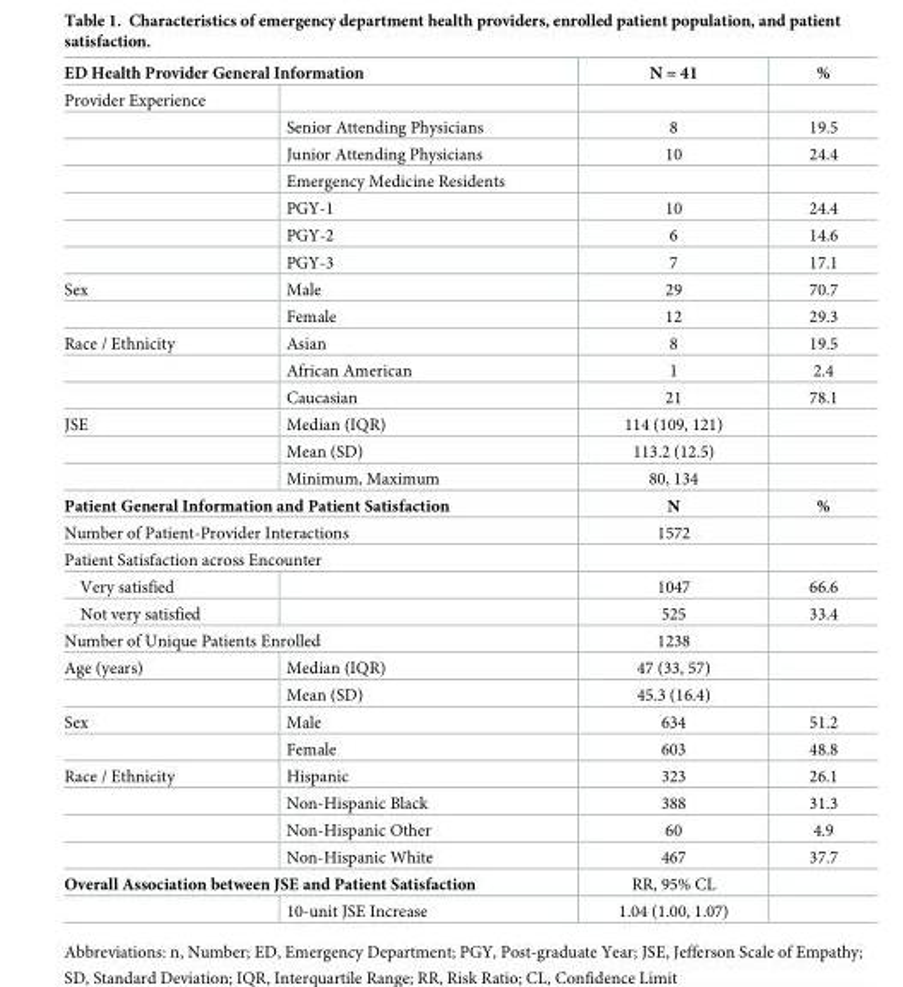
<table><tbody><tr><td colspan="2">ED Health Provider General Information</td><td>N = 41</td><td>%</td></tr><tr><td colspan="4">Provider Experience</td></tr><tr><td></td><td>Senior Attending Physicians</td><td>8</td><td>19.5</td></tr><tr><td></td><td>Junior Attending Physicians</td><td>10</td><td>24.4</td></tr><tr><td></td><td>Emergency Medicine Residents</td><td></td><td></td></tr><tr><td></td><td>PGY-1</td><td>10</td><td>24.4</td></tr><tr><td></td><td>PGY-2</td><td>6</td><td>14.6</td></tr><tr><td></td><td>PGY-3</td><td>7</td><td>17.1</td></tr><tr><td rowspan="2">Sex</td><td>Male</td><td>29</td><td>70.7</td></tr><tr><td>Female</td><td>12</td><td>29.3</td></tr><tr><td rowspan="3">Race / Ethnicity</td><td>Asian</td><td>8</td><td>19.5</td></tr><tr><td>African American</td><td>1</td><td>2.4</td></tr><tr><td>Caucasian</td><td>21</td><td>78.1</td></tr><tr><td rowspan="3">JSE</td><td>Median (IQR)</td><td>114 (109, 121)</td><td></td></tr><tr><td>Mean (SD)</td><td>113.2 (12.5)</td><td></td></tr><tr><td>Minimum, Maximum</td><td>80, 134</td><td></td></tr><tr><td colspan="2">Patient General Information and Patient Satisfaction</td><td>N</td><td>%</td></tr><tr><td colspan="2">Number of Patient-Provider Interactions</td><td>1572</td><td></td></tr><tr><td colspan="4">Patient Satisfaction across Encounter</td></tr><tr><td>Very satisfied</td><td></td><td>1047</td><td>66.6</td></tr><tr><td>Not very satisfied</td><td></td><td>525</td><td>33.4</td></tr><tr><td colspan="2">Number of Unique Patients Enrolled</td><td>1238</td><td></td></tr><tr><td rowspan="2">Age (years)</td><td>Median (IQR)</td><td>47 (33, 57)</td><td></td></tr><tr><td>Mean (SD)</td><td>45.3 (16.4)</td><td></td></tr><tr><td rowspan="2">Sex</td><td>Male</td><td>634</td><td>51.2</td></tr><tr><td>Female</td><td>603</td><td>48.8</td></tr><tr><td rowspan="4">Race / Ethnicity</td><td>Hispanic</td><td>323</td><td>26.1</td></tr><tr><td>Non-Hispanic Black</td><td>388</td><td>31.3</td></tr><tr><td>Non-Hispanic Other</td><td>60</td><td>4.9</td></tr><tr><td>Non-Hispanic White</td><td>467</td><td>37.7</td></tr><tr><td colspan="2">Overall Association between JSE and Patient Satisfaction</td><td>RR, 95% CL</td><td></td></tr><tr><td></td><td>10-unit JSE Increase</td><td>1.04 (1.00, 1.07)</td><td></td></tr></tbody></table>